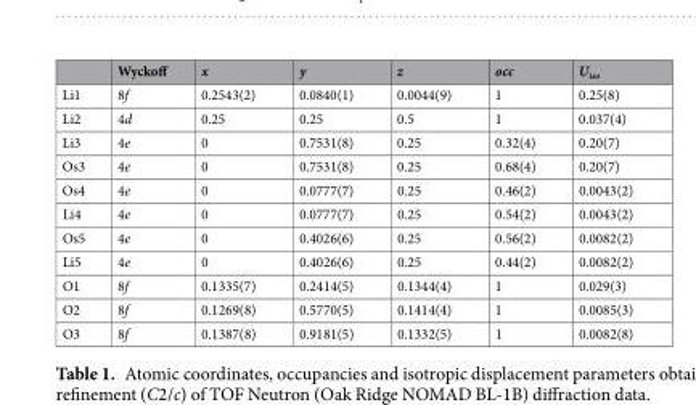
<table><thead><tr><td></td><td>Wyckoff</td><td>x</td><td>y</td><td>z</td><td>occ</td><td>U<sub>iso</sub></td></tr></thead><tbody><tr><td>Li1</td><td>8f</td><td>0.2543(2)</td><td>0.0840(1)</td><td>0.0044(9)</td><td>1</td><td>0.25(8)</td></tr><tr><td>Li2</td><td>4d</td><td>0.25</td><td>0.25</td><td>0.5</td><td>1</td><td>0.037(4)</td></tr><tr><td>Li3</td><td>4e</td><td>0</td><td>0.7531(8)</td><td>0.25</td><td>0.32(4)</td><td>0.20(7)</td></tr><tr><td>Os3</td><td>4e</td><td>0</td><td>0.7531(8)</td><td>0.25</td><td>0.68(4)</td><td>0.20(7)</td></tr><tr><td>Os4</td><td>4e</td><td>0</td><td>0.0777(7)</td><td>0.25</td><td>0.46(2)</td><td>0.0043(2)</td></tr><tr><td>Li4</td><td>4e</td><td>0</td><td>0.0777(7)</td><td>0.25</td><td>0.54(2)</td><td>0.0043(2)</td></tr><tr><td>Os5</td><td>4e</td><td>0</td><td>0.4026(6)</td><td>0.25</td><td>0.56(2)</td><td>0.0082(2)</td></tr><tr><td>Li5</td><td>4e</td><td>0</td><td>0.4026(6)</td><td>0.25</td><td>0.44(2)</td><td>0.0082(2)</td></tr><tr><td>O1</td><td>8f</td><td>0.1335(7)</td><td>0.2414(5)</td><td>0.1344(4)</td><td>1</td><td>0.029(3)</td></tr><tr><td>O2</td><td>8f</td><td>0.1269(8)</td><td>0.5770(5)</td><td>0.1414(4)</td><td>1</td><td>0.0085(3)</td></tr><tr><td>O3</td><td>8f</td><td>0.1387(8)</td><td>0.9181(5)</td><td>0.1332(5)</td><td>1</td><td>0.0082(8)</td></tr></tbody></table>